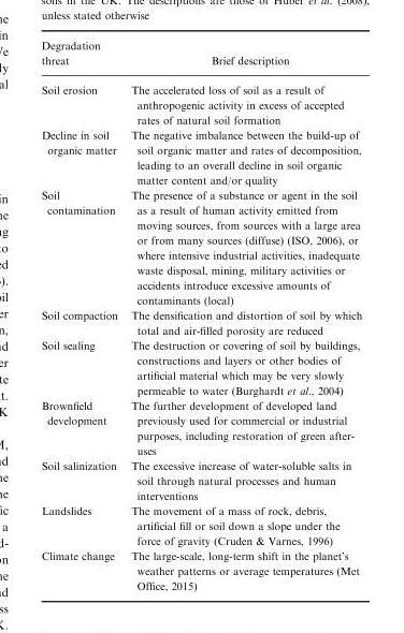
<table><thead><tr><td>Degradation threat</td><td>Brief description</td></tr></thead><tbody><tr><td>Soil erosion</td><td>The accelerated loss of soil as a result of anthropogenic activity in excess of accepted rates of natural soil formation</td></tr><tr><td>Decline in soil organic matter</td><td>The negative imbalance between the build-up of soil organic matter and rates of decomposition, leading to an overall decline in soil organic matter content and/or quality</td></tr><tr><td>Soil contamination</td><td>The presence of a substance or agent in the soil as a result of human activity emitted from moving sources, from sources with a large area or from many sources (diffuse) (ISO, 2006), or where intensive industrial activities, inadequate waste disposal, mining, military activities or accidents introduce excessive amounts of contaminants (local)</td></tr><tr><td>Soil compaction</td><td>The densification and distortion of soil by which total and air-filled porosity are reduced</td></tr><tr><td>Soil sealing</td><td>The destruction or covering of soil by buildings, constructions and layers or other bodies of artificial material which may be very slowly permeable to water (Burghardt et al., 2004)</td></tr><tr><td>Brownfield development</td><td>The further development of developed land previously used for commercial or industrial purposes, including restoration of green after- uses</td></tr><tr><td>Soil salinization</td><td>The excessive increase of water-soluble salts in soil through natural processes and human interventions</td></tr><tr><td>Landslides</td><td>The movement of a mass of rock, debris, artificial fill or soil down a slope under the force of gravity (Cruden &amp; Varnes, 1996)</td></tr><tr><td>Climate change</td><td>The large-scale, long-term shift in the planet’s weather patterns or average temperatures (Met Office, 2015)</td></tr></tbody></table>